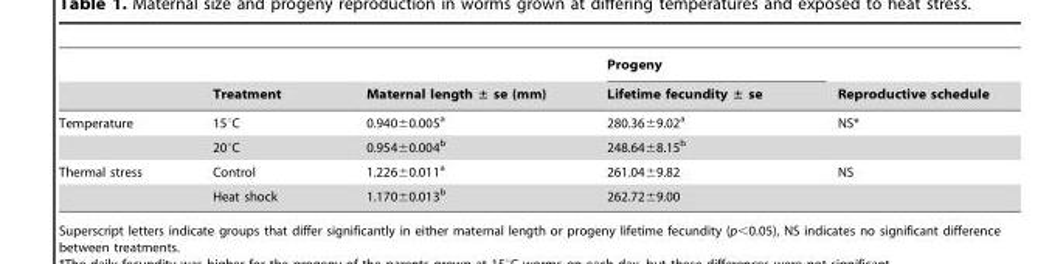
<table><thead><tr><td rowspan="2"></td><td rowspan="2">Treatment</td><td rowspan="2">Maternal length ± se (mm)</td><td rowspan="2">Progeny Lifetime fecundity ± se</td><td rowspan="2">Reproductive schedule</td></tr><tr></tr></thead><tbody><tr><td rowspan="2">Temperature</td><td>15°C</td><td>0.940±0.005<sup>a</sup></td><td>280.36±9.02<sup>a</sup></td><td>NS*</td></tr><tr><td>20°C</td><td>0.954±0.004<sup>b</sup></td><td>248.64±8.15<sup>b</sup></td><td></td></tr><tr><td rowspan="2">Thermal stress</td><td>Control</td><td>1.226±0.011<sup>a</sup></td><td>261.04±9.82</td><td>NS</td></tr><tr><td>Heat shock</td><td>1.170±0.013<sup>b</sup></td><td>262.72±9.00</td><td></td></tr></tbody></table>